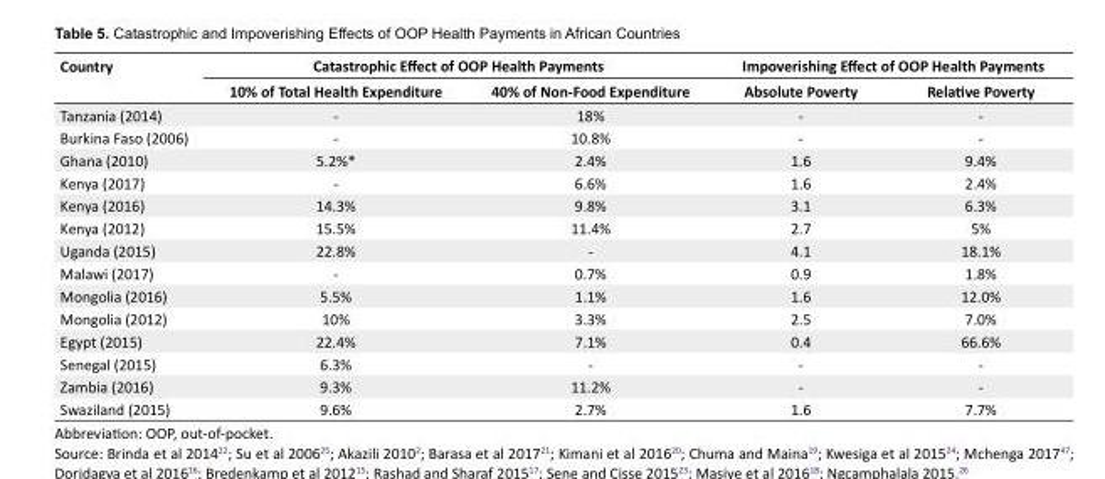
<table><tbody><tr><td rowspan="2">Country</td><td colspan="2">Catastrophic Effect of OOP Health Payments</td><td colspan="2">Impoverishing Effect of OOP Health Payments</td></tr><tr><td>10% of Total Health Expenditure</td><td>40% of Non-Food Expenditure</td><td>Absolute Poverty</td><td>Relative Poverty</td></tr><tr><td>Tanzania (2014)</td><td>-</td><td>18%</td><td>-</td><td>-</td></tr><tr><td>Burkina Faso (2006)</td><td>-</td><td>10.8%</td><td>-</td><td>-</td></tr><tr><td>Ghana (2010)</td><td>5.2%*</td><td>2.4%</td><td>1.6</td><td>9.4%</td></tr><tr><td>Kenya (2017)</td><td>-</td><td>6.6%</td><td>1.6</td><td>2.4%</td></tr><tr><td>Kenya (2016)</td><td>14.3%</td><td>9.8%</td><td>3.1</td><td>6.3%</td></tr><tr><td>Kenya (2012)</td><td>15.5%</td><td>11.4%</td><td>2.7</td><td>5%</td></tr><tr><td>Uganda (2015)</td><td>22.8%</td><td>-</td><td>4.1</td><td>18.1%</td></tr><tr><td>Malawi (2017)</td><td>-</td><td>0.7%</td><td>0.9</td><td>1.8%</td></tr><tr><td>Mongolia (2016)</td><td>5.5%</td><td>1.1%</td><td>1.6</td><td>12.0%</td></tr><tr><td>Mongolia (2012)</td><td>10%</td><td>3.3%</td><td>2.5</td><td>7.0%</td></tr><tr><td>Egypt (2015)</td><td>22.4%</td><td>7.1%</td><td>0.4</td><td>66.6%</td></tr><tr><td>Senegal (2015)</td><td>6.3%</td><td>-</td><td>-</td><td>-</td></tr><tr><td>Zambia (2016)</td><td>9.3%</td><td>11.2%</td><td>-</td><td>-</td></tr><tr><td>Swaziland (2015)</td><td>9.6%</td><td>2.7%</td><td>1.6</td><td>7.7%</td></tr></tbody></table>